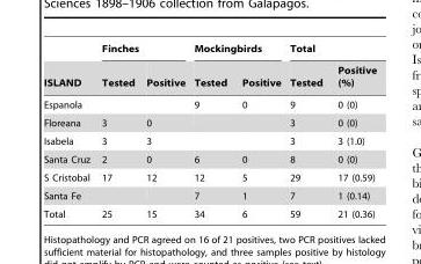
<table><thead><tr><td rowspan="2">ISLAND</td><td colspan="2">Finches</td><td colspan="2">Mockingbirds</td><td colspan="2">Total</td></tr><tr><td>Tested</td><td>Positive</td><td>Tested</td><td>Positive</td><td>Tested</td><td>Positive (%)</td></tr></thead><tbody><tr><td>Espanola</td><td></td><td></td><td>9</td><td>0</td><td>9</td><td>0 (0)</td></tr><tr><td>Floreana</td><td>3</td><td>0</td><td></td><td></td><td>3</td><td>0 (0)</td></tr><tr><td>Isabela</td><td>3</td><td>3</td><td></td><td></td><td>3</td><td>3 (1.0)</td></tr><tr><td>Santa Cruz</td><td>2</td><td>0</td><td>6</td><td>0</td><td>8</td><td>0 (0)</td></tr><tr><td>S Cristobal</td><td>17</td><td>12</td><td>12</td><td>5</td><td>29</td><td>17 (0.59)</td></tr><tr><td>Santa Fe</td><td></td><td></td><td>7</td><td>1</td><td>7</td><td>1 (0.14)</td></tr><tr><td>Total</td><td>25</td><td>15</td><td>34</td><td>6</td><td>59</td><td>21 (0.36)</td></tr></tbody></table>